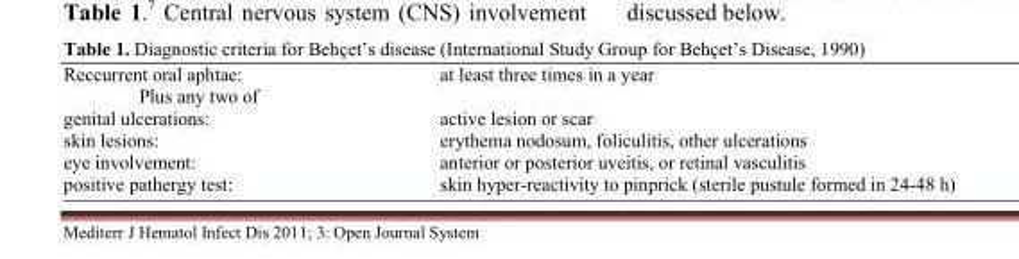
<table><tbody><tr><td>Reccurrent oral aphtae:</td><td>at least three times in a year</td></tr><tr><td>Plus any two of genital ulcerations:</td><td>active lesion or scar</td></tr><tr><td>skin lesions:</td><td>erythema nodosum, foliculitis, other ulcerations</td></tr><tr><td>eye involvement:</td><td>anterior or posterior uveitis, or retinal vasculitis</td></tr><tr><td>positive pathergy test:</td><td>skin hyper-reactivity to pinprick (sterile pustule formed in 24-48 h)</td></tr></tbody></table>